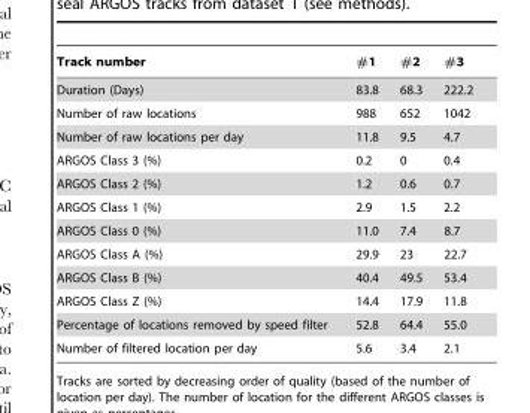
<table><thead><tr><td>Track number</td><td>#1</td><td>#2</td><td>#3</td></tr></thead><tbody><tr><td>Duration (Days)</td><td>83.8</td><td>68.3</td><td>222.2</td></tr><tr><td>Number of raw locations</td><td>988</td><td>652</td><td>1042</td></tr><tr><td>Number of raw locations per day</td><td>11.8</td><td>9.5</td><td>4.7</td></tr><tr><td>ARGOS Class 3 (%)</td><td>0.2</td><td>0</td><td>0.4</td></tr><tr><td>ARGOS Class 2 (%)</td><td>1.2</td><td>0.6</td><td>0.7</td></tr><tr><td>ARGOS Class 1 (%)</td><td>2.9</td><td>1.5</td><td>2.2</td></tr><tr><td>ARGOS Class 0 (%)</td><td>11.0</td><td>7.4</td><td>8.7</td></tr><tr><td>ARGOS Class A (%)</td><td>29.9</td><td>23</td><td>22.7</td></tr><tr><td>ARGOS Class B (%)</td><td>40.4</td><td>49.5</td><td>53.4</td></tr><tr><td>ARGOS Class Z (%)</td><td>14.4</td><td>17.9</td><td>11.8</td></tr><tr><td>Percentage of locations removed by speed filter</td><td>52.8</td><td>64.4</td><td>55.0</td></tr><tr><td>Number of filtered location per day</td><td>5.6</td><td>3.4</td><td>2.1</td></tr></tbody></table>